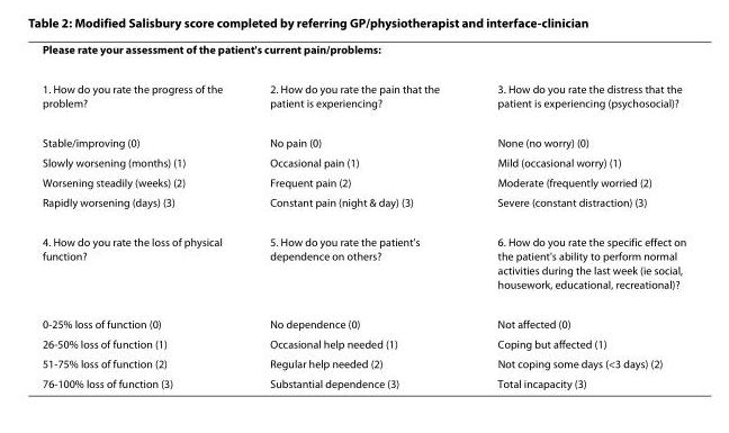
<table><tbody><tr><td colspan="3">Please rate your assessment of the patient&#x27;s current pain/problems:</td></tr><tr><td>1. How do you rate the progress of the problem?</td><td>2. How do you rate the pain that the patient is experiencing?</td><td>3. How do you rate the distress that the patient is experiencing (psychosocial)?</td></tr><tr><td>Stable/improving (0)</td><td>No pain (0)</td><td>None (no worry) (0)</td></tr><tr><td>Slowly worsening (months) (1)</td><td>Occasional pain (1)</td><td>Mild (occasional worry) (1)</td></tr><tr><td>Worsening steadily (weeks) (2)</td><td>Frequent pain (2)</td><td>Moderate (frequently worried (2)</td></tr><tr><td>Rapidly worsening (days) (3)</td><td>Constant pain (night &amp; day) (3)</td><td>Severe (constant distraction) (3)</td></tr><tr><td>4. How do you rate the loss of physical function?</td><td>5. How do you rate the patient&#x27;s dependence on others?</td><td>6. How do you rate the specific effect on the patient&#x27;s ability to perform normal activities during the last week (ie social, housework, educational, recreational)?</td></tr><tr><td>0-25% loss of function (0)</td><td>No dependence (0)</td><td>Not affected (0)</td></tr><tr><td>26-50% loss of function (1)</td><td>Occasional help needed (1)</td><td>Coping but affected (1)</td></tr><tr><td>51-75% loss of function (2)</td><td>Regular help needed (2)</td><td>Not coping some days (&lt;3 days) (2)</td></tr><tr><td>76-100% loss of function (3)</td><td>Substantial dependence (3)</td><td>Total incapacity (3)</td></tr></tbody></table>